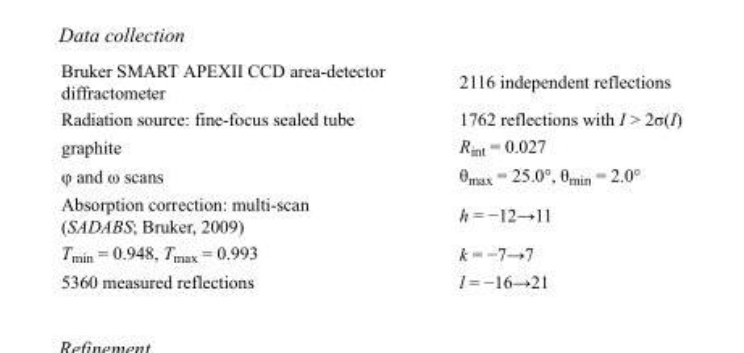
<table><tbody><tr><td>Bruker SMART APEXII CCD area-detector diffractometer</td><td>2116 independent reflections</td></tr><tr><td>Radiation source: fine-focus sealed tube</td><td>1762 reflections with I &gt; 2σ(I)</td></tr><tr><td>graphite</td><td>R<sub>int</sub> = 0.027</td></tr><tr><td>φ and ω scans</td><td>θ<sub>max</sub> = 25.0°, θ<sub>min</sub> = 2.0°</td></tr><tr><td>Absorption correction: multi-scan (SADABS; Bruker, 2009)</td><td>h = −12→11</td></tr><tr><td>T<sub>min</sub> = 0.948, T<sub>max</sub> = 0.993</td><td>k = −7→7</td></tr><tr><td>5360 measured reflections</td><td>l = −16→21</td></tr></tbody></table>